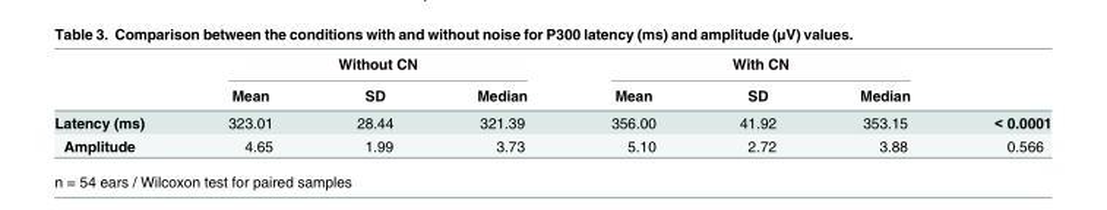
<table><thead><tr><td rowspan="2"></td><td colspan="3">Without CN</td><td colspan="3">With CN</td><td rowspan="2"></td></tr><tr><td>Mean</td><td>SD</td><td>Median</td><td>Mean</td><td>SD</td><td>Median</td></tr></thead><tbody><tr><td>Latency (ms)</td><td>323.01</td><td>28.44</td><td>321.39</td><td>356.00</td><td>41.92</td><td>353.15</td><td>&lt; 0.0001</td></tr><tr><td>Amplitude</td><td>4.65</td><td>1.99</td><td>3.73</td><td>5.10</td><td>2.72</td><td>3.88</td><td>0.566</td></tr></tbody></table>